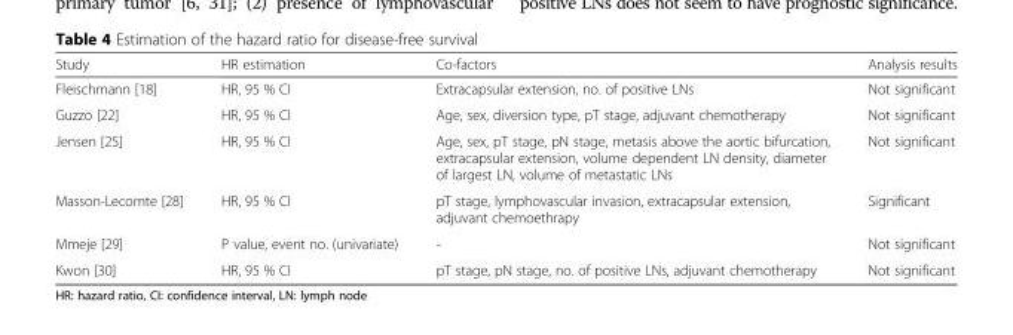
<table><thead><tr><td>Study</td><td>HR estimation</td><td>Co-factors</td><td>Analysis results</td></tr></thead><tbody><tr><td>Fleischmann [18]</td><td>HR, 95 % CI</td><td>Extracapsular extension, no. of positive LNs</td><td>Not significant</td></tr><tr><td>Guzzo [22]</td><td>HR, 95 % CI</td><td>Age, sex, diversion type, pT stage, adjuvant chemotherapy</td><td>Not significant</td></tr><tr><td>Jensen [25]</td><td>HR, 95 % CI</td><td>Age, sex, pT stage, pN stage, metasis above the aortic bifurcation, extracapsular extension, volume dependent LN density, diameter of largest LN, volume of metastatic LNs</td><td>Not significant</td></tr><tr><td>Masson-Lecomte [28]</td><td>HR, 95 % CI</td><td>pT stage, lymphovascular invasion, extracapsular extension, adjuvant chemoethrapy</td><td>Significant</td></tr><tr><td>Mmeje [29]</td><td>P value, event no. (univariate)</td><td>-</td><td>Not significant</td></tr><tr><td>Kwon [30]</td><td>HR, 95 % CI</td><td>pT stage, pN stage, no. of positive LNs, adjuvant chemotherapy</td><td>Not significant</td></tr></tbody></table>